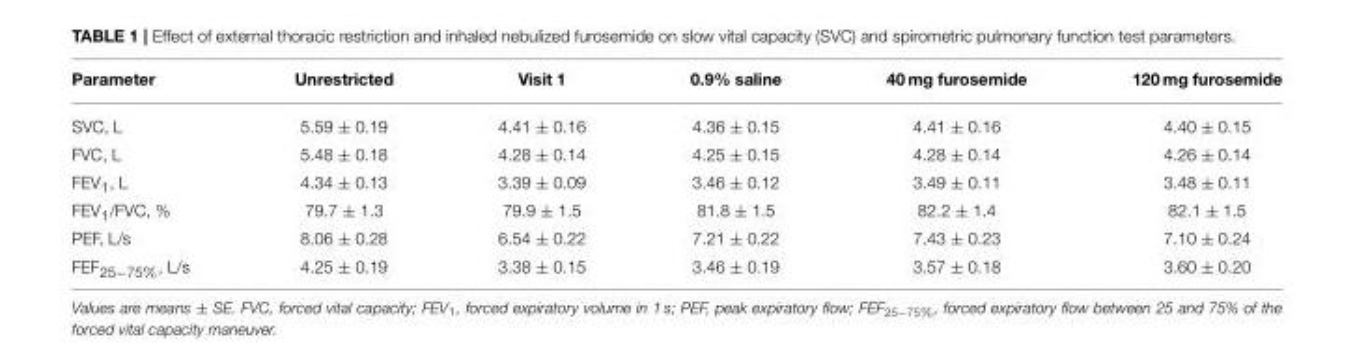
<table><thead><tr><td>Parameter</td><td>Unrestricted</td><td>Visit 1</td><td>0.9% saline</td><td>40 mg furosemide</td><td>120 mg furosemide</td></tr></thead><tbody><tr><td>SVC, L</td><td>5.59 ± 0.19</td><td>4.41 ± 0.16</td><td>4.36 ± 0.15</td><td>4.41 ± 0.16</td><td>4.40 ± 0.15</td></tr><tr><td>FVC, L</td><td>5.48 ± 0.18</td><td>4.28 ± 0.14</td><td>4.25 ± 0.15</td><td>4.28 ± 0.14</td><td>4.26 ± 0.14</td></tr><tr><td>FEV<sub>1</sub>, L</td><td>4.34 ± 0.13</td><td>3.39 ± 0.09</td><td>3.46 ± 0.12</td><td>3.49 ± 0.11</td><td>3.48 ± 0.11</td></tr><tr><td>FEV<sub>1</sub>/FVC, %</td><td>79.7 ± 1.3</td><td>79.9 ± 1.5</td><td>81.8 ± 1.5</td><td>82.2 ± 1.4</td><td>82.1 ± 1.5</td></tr><tr><td>PEF, L/s</td><td>8.06 ± 0.28</td><td>6.54 ± 0.22</td><td>7.21 ± 0.22</td><td>7.43 ± 0.23</td><td>7.10 ± 0.24</td></tr><tr><td>FEF<sub>25−75%</sub>, L/s</td><td>4.25 ± 0.19</td><td>3.38 ± 0.15</td><td>3.46 ± 0.19</td><td>3.57 ± 0.18</td><td>3.60 ± 0.20</td></tr></tbody></table>